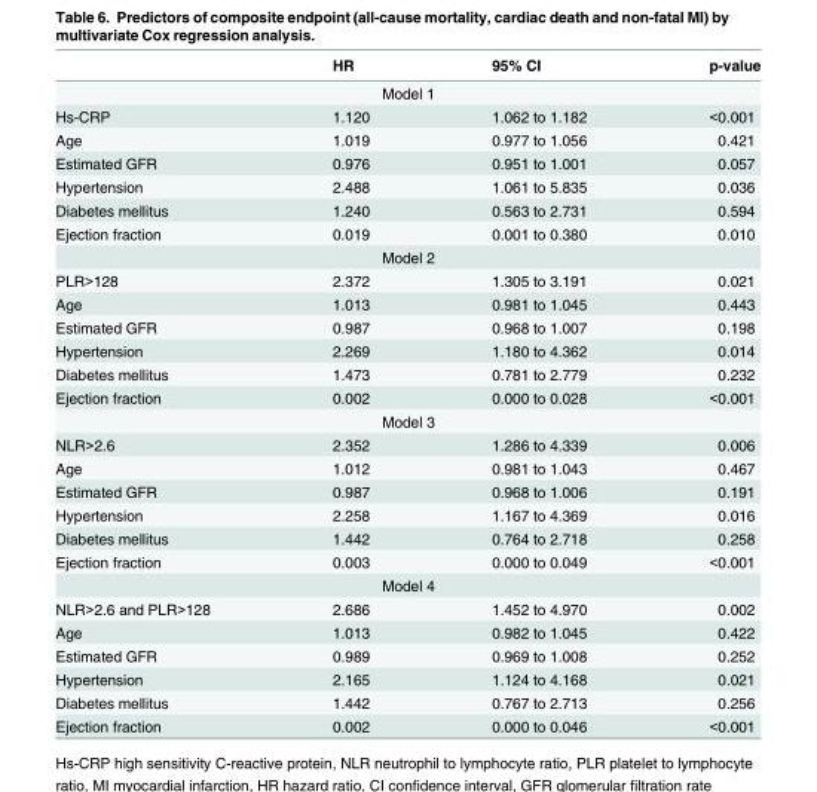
<table><thead><tr><td></td><td>HR</td><td>95% CI</td><td>p-value</td></tr></thead><tbody><tr><td colspan="4">Model 1</td></tr><tr><td>Hs-CRP</td><td>1.120</td><td>1.062 to 1.182</td><td>&lt;0.001</td></tr><tr><td>Age</td><td>1.019</td><td>0.977 to 1.056</td><td>0.421</td></tr><tr><td>Estimated GFR</td><td>0.976</td><td>0.951 to 1.001</td><td>0.057</td></tr><tr><td>Hypertension</td><td>2.488</td><td>1.061 to 5.835</td><td>0.036</td></tr><tr><td>Diabetes mellitus</td><td>1.240</td><td>0.563 to 2.731</td><td>0.594</td></tr><tr><td>Ejection fraction</td><td>0.019</td><td>0.001 to 0.380</td><td>0.010</td></tr><tr><td colspan="4">Model 2</td></tr><tr><td>PLR&gt;128</td><td>2.372</td><td>1.305 to 3.191</td><td>0.021</td></tr><tr><td>Age</td><td>1.013</td><td>0.981 to 1.045</td><td>0.443</td></tr><tr><td>Estimated GFR</td><td>0.987</td><td>0.968 to 1.007</td><td>0.198</td></tr><tr><td>Hypertension</td><td>2.269</td><td>1.180 to 4.362</td><td>0.014</td></tr><tr><td>Diabetes mellitus</td><td>1.473</td><td>0.781 to 2.779</td><td>0.232</td></tr><tr><td>Ejection fraction</td><td>0.002</td><td>0.000 to 0.028</td><td>&lt;0.001</td></tr><tr><td colspan="4">Model 3</td></tr><tr><td>NLR&gt;2.6</td><td>2.352</td><td>1.286 to 4.339</td><td>0.006</td></tr><tr><td>Age</td><td>1.012</td><td>0.981 to 1.043</td><td>0.467</td></tr><tr><td>Estimated GFR</td><td>0.987</td><td>0.968 to 1.006</td><td>0.191</td></tr><tr><td>Hypertension</td><td>2.258</td><td>1.167 to 4.369</td><td>0.016</td></tr><tr><td>Diabetes mellitus</td><td>1.442</td><td>0.764 to 2.718</td><td>0.258</td></tr><tr><td>Ejection fraction</td><td>0.003</td><td>0.000 to 0.049</td><td>&lt;0.001</td></tr><tr><td colspan="4">Model 4</td></tr><tr><td>NLR&gt;2.6 and PLR&gt;128</td><td>2.686</td><td>1.452 to 4.970</td><td>0.002</td></tr><tr><td>Age</td><td>1.013</td><td>0.982 to 1.045</td><td>0.422</td></tr><tr><td>Estimated GFR</td><td>0.989</td><td>0.969 to 1.008</td><td>0.252</td></tr><tr><td>Hypertension</td><td>2.165</td><td>1.124 to 4.168</td><td>0.021</td></tr><tr><td>Diabetes mellitus</td><td>1.442</td><td>0.767 to 2.713</td><td>0.256</td></tr><tr><td>Ejection fraction</td><td>0.002</td><td>0.000 to 0.046</td><td>&lt;0.001</td></tr></tbody></table>